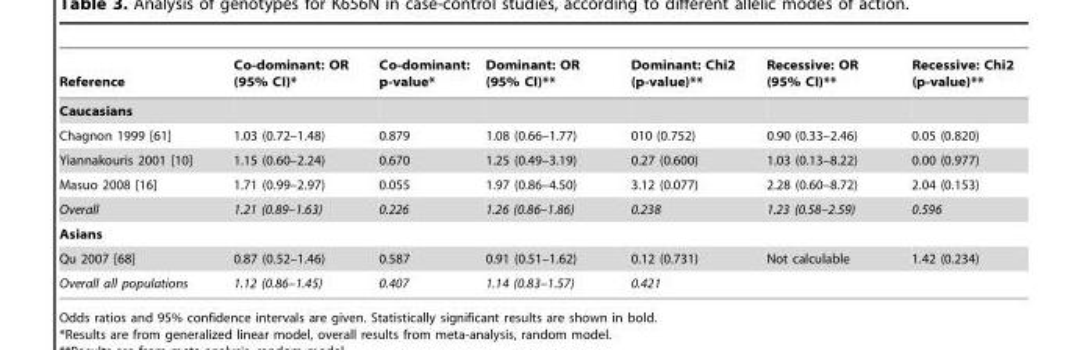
<table><thead><tr><td>Reference</td><td>Co-dominant: OR (95% CI)*</td><td>Co-dominant: p-value*</td><td>Dominant: OR (95% CI)**</td><td>Dominant: Chi2 (p-value)**</td><td>Recessive: OR (95% CI)**</td><td>Recessive: Chi2 (p-value)**</td></tr></thead><tbody><tr><td colspan="7">Caucasians</td></tr><tr><td>Chagnon 1999 [61]</td><td>1.03 (0.72–1.48)</td><td>0.879</td><td>1.08 (0.66–1.77)</td><td>010 (0.752)</td><td>0.90 (0.33–2.46)</td><td>0.05 (0.820)</td></tr><tr><td>Yiannakouris 2001 [10]</td><td>1.15 (0.60–2.24)</td><td>0.670</td><td>1.25 (0.49–3.19)</td><td>0.27 (0.600)</td><td>1.03 (0.13–8.22)</td><td>0.00 (0.977)</td></tr><tr><td>Masuo 2008 [16]</td><td>1.71 (0.99–2.97)</td><td>0.055</td><td>1.97 (0.86–4.50)</td><td>3.12 (0.077)</td><td>2.28 (0.60–8.72)</td><td>2.04 (0.153)</td></tr><tr><td>Overall</td><td>1.21 (0.89–1.63)</td><td>0.226</td><td>1.26 (0.86–1.86)</td><td>0.238</td><td>1.23 (0.58–2.59)</td><td>0.596</td></tr><tr><td colspan="7">Asians</td></tr><tr><td>Qu 2007 [68]</td><td>0.87 (0.52–1.46)</td><td>0.587</td><td>0.91 (0.51–1.62)</td><td>0.12 (0.731)</td><td>Not calculable</td><td>1.42 (0.234)</td></tr><tr><td>Overall all populations</td><td>1.12 (0.86–1.45)</td><td>0.407</td><td>1.14 (0.83–1.57)</td><td>0.421</td><td></td><td></td></tr></tbody></table>